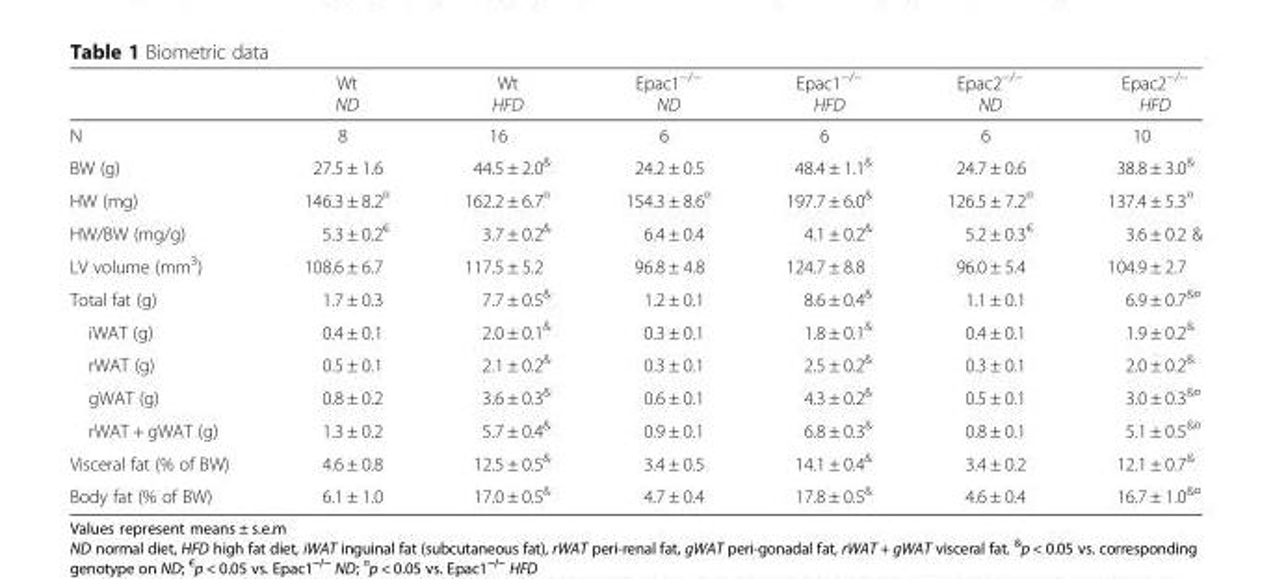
<table><thead><tr><td></td><td>Wt ND</td><td>Wt HFD</td><td>Epac1<sup>−/−</sup> ND</td><td>Epac1<sup>−/−</sup> HFD</td><td>Epac2<sup>−/−</sup> ND</td><td>Epac2<sup>−/−</sup> HFD</td></tr></thead><tbody><tr><td>N</td><td>8</td><td>16</td><td>6</td><td>6</td><td>6</td><td>10</td></tr><tr><td>BW (g)</td><td>27.5 ± 1.6</td><td>44.5 ± 2.0<sup>&amp;</sup></td><td>24.2 ± 0.5</td><td>48.4 ± 1.1<sup>&amp;</sup></td><td>24.7 ± 0.6</td><td>38.8 ± 3.0<sup>&amp;</sup></td></tr><tr><td>HW (mg)</td><td>146.3 ± 8.2<sup>¤</sup></td><td>162.2 ± 6.7<sup>¤</sup></td><td>154.3 ± 8.6<sup>¤</sup></td><td>197.7 ± 6.0<sup>&amp;</sup></td><td>126.5 ± 7.2<sup>¤</sup></td><td>137.4 ± 5.3<sup>¤</sup></td></tr><tr><td>HW/BW (mg/g)</td><td>5.3 ± 0.2<sup>€</sup></td><td>3.7 ± 0.2<sup>&amp;</sup></td><td>6.4 ± 0.4</td><td>4.1 ± 0.2<sup>&amp;</sup></td><td>5.2 ± 0.3<sup>€</sup></td><td>3.6 ± 0.2 &amp;</td></tr><tr><td>LV volume (mm<sup>3</sup>)</td><td>108.6 ± 6.7</td><td>117.5 ± 5.2</td><td>96.8 ± 4.8</td><td>124.7 ± 8.8</td><td>96.0 ± 5.4</td><td>104.9 ± 2.7</td></tr><tr><td>Total fat (g)</td><td>1.7 ± 0.3</td><td>7.7 ± 0.5<sup>&amp;</sup></td><td>1.2 ± 0.1</td><td>8.6 ± 0.4<sup>&amp;</sup></td><td>1.1 ± 0.1</td><td>6.9 ± 0.7<sup>&amp;¤</sup></td></tr><tr><td>iWAT (g)</td><td>0.4 ± 0.1</td><td>2.0 ± 0.1<sup>&amp;</sup></td><td>0.3 ± 0.1</td><td>1.8 ± 0.1<sup>&amp;</sup></td><td>0.4 ± 0.1</td><td>1.9 ± 0.2<sup>&amp;</sup></td></tr><tr><td>rWAT (g)</td><td>0.5 ± 0.1</td><td>2.1 ± 0.2<sup>&amp;</sup></td><td>0.3 ± 0.1</td><td>2.5 ± 0.2<sup>&amp;</sup></td><td>0.3 ± 0.1</td><td>2.0 ± 0.2<sup>&amp;</sup></td></tr><tr><td>gWAT (g)</td><td>0.8 ± 0.2</td><td>3.6 ± 0.3<sup>&amp;</sup></td><td>0.6 ± 0.1</td><td>4.3 ± 0.2<sup>&amp;</sup></td><td>0.5 ± 0.1</td><td>3.0 ± 0.3<sup>&amp;¤</sup></td></tr><tr><td>rWAT + gWAT (g)</td><td>1.3 ± 0.2</td><td>5.7 ± 0.4<sup>&amp;</sup></td><td>0.9 ± 0.1</td><td>6.8 ± 0.3<sup>&amp;</sup></td><td>0.8 ± 0.1</td><td>5.1 ± 0.5<sup>&amp;¤</sup></td></tr><tr><td>Visceral fat (% of BW)</td><td>4.6 ± 0.8</td><td>12.5 ± 0.5<sup>&amp;</sup></td><td>3.4 ± 0.5</td><td>14.1 ± 0.4<sup>&amp;</sup></td><td>3.4 ± 0.2</td><td>12.1 ± 0.7<sup>&amp;</sup></td></tr><tr><td>Body fat (% of BW)</td><td>6.1 ± 1.0</td><td>17.0 ± 0.5<sup>&amp;</sup></td><td>4.7 ± 0.4</td><td>17.8 ± 0.5<sup>&amp;</sup></td><td>4.6 ± 0.4</td><td>16.7 ± 1.0<sup>&amp;¤</sup></td></tr></tbody></table>